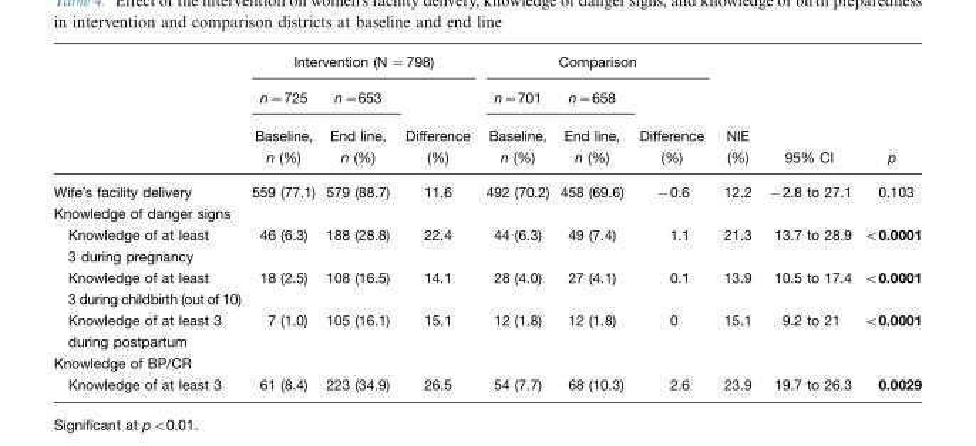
<table><thead><tr><td rowspan="3"></td><td colspan="3">Intervention (N =798)</td><td colspan="3">Comparison</td><td rowspan="3">NIE (%)</td><td rowspan="3">95% CI</td><td rowspan="3">p</td></tr><tr><td rowspan="2">n=725 Baseline, n (%)</td><td rowspan="2">n=653 End line, n (%)</td><td rowspan="2">Difference (%)</td><td rowspan="2">n=701 Baseline, n (%)</td><td rowspan="2">n=658 End line, n (%)</td><td rowspan="2">Difference (%)</td></tr><tr></tr></thead><tbody><tr><td>Wife’s facility delivery</td><td>559 (77.1)</td><td>579 (88.7)</td><td>11.6</td><td>492 (70.2)</td><td>458 (69.6)</td><td>−0.6</td><td>12.2</td><td>−2.8 to 27.1</td><td>0.103</td></tr><tr><td colspan="10">Knowledge of danger signs</td></tr><tr><td>Knowledge of at least 3 during pregnancy</td><td>46 (6.3)</td><td>188 (28.8)</td><td>22.4</td><td>44 (6.3)</td><td>49 (7.4)</td><td>1.1</td><td>21.3</td><td>13.7 to 28.9</td><td>&lt;0.0001</td></tr><tr><td>Knowledge of at least 3 during childbirth (out of 10)</td><td>18 (2.5)</td><td>108 (16.5)</td><td>14.1</td><td>28 (4.0)</td><td>27 (4.1)</td><td>0.1</td><td>13.9</td><td>10.5 to 17.4</td><td>&lt;0.0001</td></tr><tr><td>Knowledge of at least 3 during postpartum</td><td>7 (1.0)</td><td>105 (16.1)</td><td>15.1</td><td>12 (1.8)</td><td>12 (1.8)</td><td>0</td><td>15.1</td><td>9.2 to 21</td><td>&lt;0.0001</td></tr><tr><td colspan="10">Knowledge of BP/CR</td></tr><tr><td>Knowledge of at least 3</td><td>61 (8.4)</td><td>223 (34.9)</td><td>26.5</td><td>54 (7.7)</td><td>68 (10.3)</td><td>2.6</td><td>23.9</td><td>19.7 to 26.3</td><td>0.0029</td></tr></tbody></table>